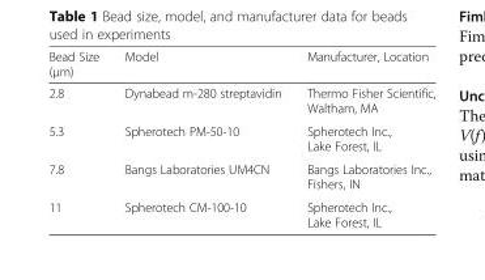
<table><thead><tr><td>Bead Size (μm)</td><td>Model</td><td>Manufacturer, Location</td></tr></thead><tbody><tr><td>2.8</td><td>Dynabead m-280 streptavidin</td><td>Thermo Fisher Scientific, Waltham, MA</td></tr><tr><td>5.3</td><td>Spherotech PM-50-10</td><td>Spherotech Inc., Lake Forest, IL</td></tr><tr><td>7.8</td><td>Bangs Laboratories UM4CN</td><td>Bangs Laboratories Inc., Fishers, IN</td></tr><tr><td>11</td><td>Spherotech CM-100-10</td><td>Spherotech Inc., Lake Forest, IL</td></tr></tbody></table>